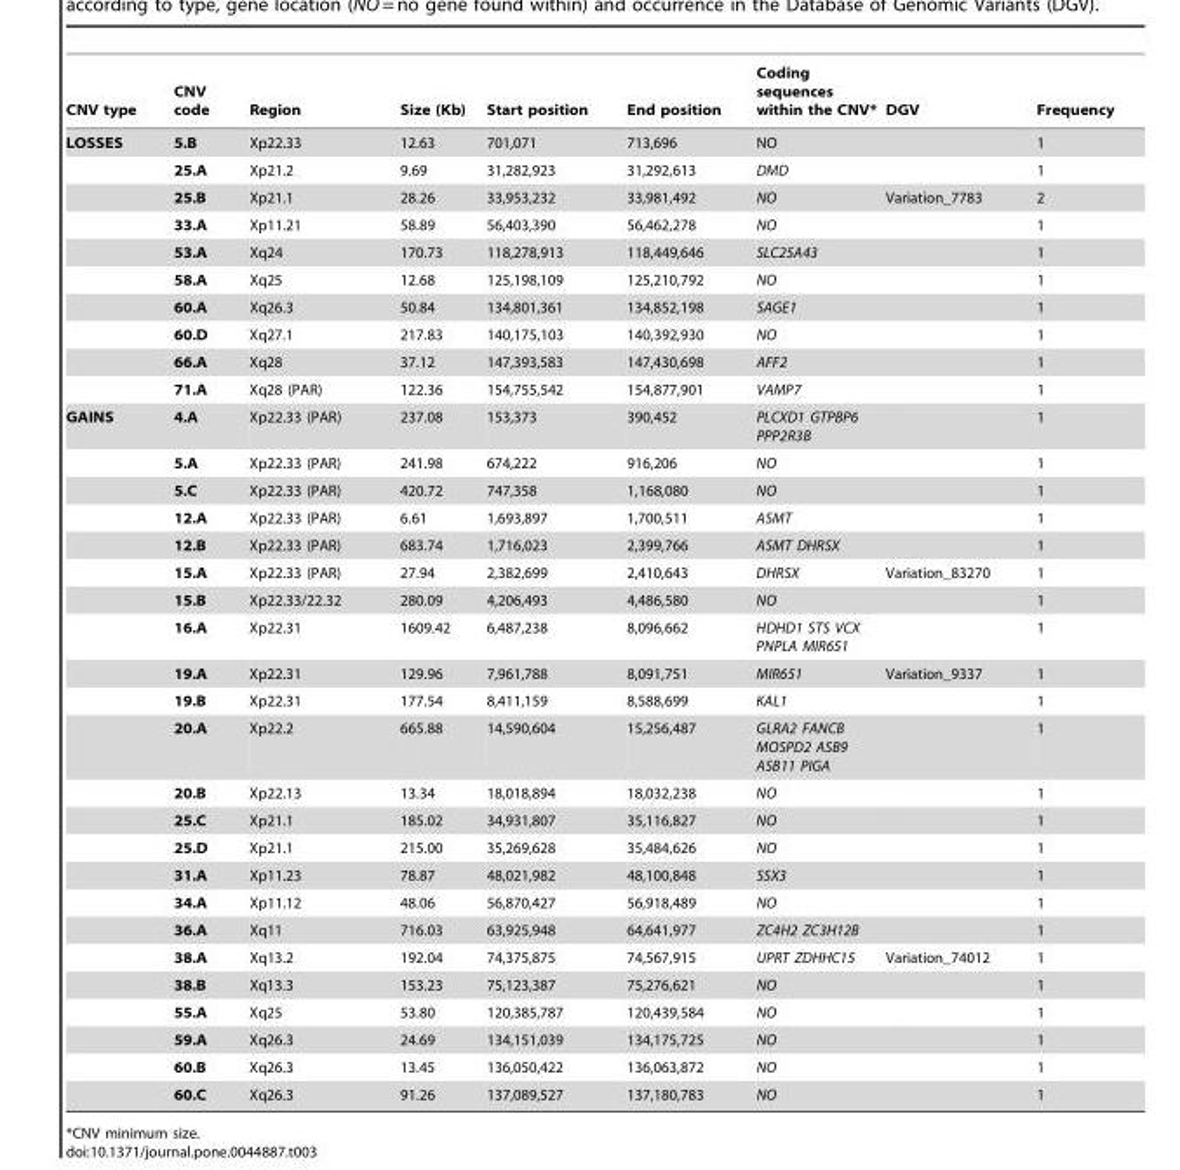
<table><thead><tr><td>CNV type</td><td>CNV code</td><td>Region</td><td>Size (Kb)</td><td>Start position</td><td>End position</td><td>Coding sequences within the CNV*</td><td>DGV</td><td>Frequency</td></tr></thead><tbody><tr><td rowspan="10">LOSSES</td><td>5.B</td><td>Xp22.33</td><td>12.63</td><td>701,071</td><td>713,696</td><td>NO</td><td></td><td>1</td></tr><tr><td>25.A</td><td>Xp21.2</td><td>9.69</td><td>31,282,923</td><td>31,292,613</td><td>DMD</td><td></td><td>1</td></tr><tr><td>25.B</td><td>Xp21.1</td><td>28.26</td><td>33,953,232</td><td>33,981,492</td><td>NO</td><td>Variation_7783</td><td>2</td></tr><tr><td>33.A</td><td>Xp11.21</td><td>58.89</td><td>56,403,390</td><td>56,462,278</td><td>NO</td><td></td><td>1</td></tr><tr><td>53.A</td><td>Xq24</td><td>170.73</td><td>118,278,913</td><td>118,449,646</td><td>SLC25A43</td><td></td><td>1</td></tr><tr><td>58.A</td><td>Xq25</td><td>12.68</td><td>125,198,109</td><td>125,210,792</td><td>NO</td><td></td><td>1</td></tr><tr><td>60.A</td><td>Xq26.3</td><td>50.84</td><td>134,801,361</td><td>134,852,198</td><td>SAGE1</td><td></td><td>1</td></tr><tr><td>60.D</td><td>Xq27.1</td><td>217.83</td><td>140,175,103</td><td>140,392,930</td><td>NO</td><td></td><td>1</td></tr><tr><td>66.A</td><td>Xq28</td><td>37.12</td><td>147,393,583</td><td>147,430,698</td><td>AFF2</td><td></td><td>1</td></tr><tr><td>71.A</td><td>Xq28 (PAR)</td><td>122.36</td><td>154,755,542</td><td>154,877,901</td><td>VAMP7</td><td></td><td>1</td></tr><tr><td rowspan="23">GAINS</td><td>4.A</td><td>Xp22.33 (PAR)</td><td>237.08</td><td>153,373</td><td>390,452</td><td>PLCXD1 GTPBP6 PPP2R3B</td><td></td><td>1</td></tr><tr><td>5.A</td><td>Xp22.33 (PAR)</td><td>241.98</td><td>674,222</td><td>916,206</td><td>NO</td><td></td><td>1</td></tr><tr><td>5.C</td><td>Xp22.33 (PAR)</td><td>420.72</td><td>747,358</td><td>1,168,080</td><td>NO</td><td></td><td>1</td></tr><tr><td>12.A</td><td>Xp22.33 (PAR)</td><td>6.61</td><td>1,693,897</td><td>1,700,511</td><td>ASMT</td><td></td><td>1</td></tr><tr><td>12.B</td><td>Xp22.33 (PAR)</td><td>683.74</td><td>1,716,023</td><td>2,399,766</td><td>ASMT DHRSX</td><td></td><td>1</td></tr><tr><td>15.A</td><td>Xp22.33 (PAR)</td><td>27.94</td><td>2,382,699</td><td>2,410,643</td><td>DHRSX</td><td>Variation_83270</td><td>1</td></tr><tr><td>15.B</td><td>Xp22.33/22.32</td><td>280.09</td><td>4,206,493</td><td>4,486,580</td><td>NO</td><td></td><td>1</td></tr><tr><td>16.A</td><td>Xp22.31</td><td>1609.42</td><td>6,487,238</td><td>8,096,662</td><td>HDHD1 STS VCX PNPLA MIR651</td><td></td><td>1</td></tr><tr><td>19.A</td><td>Xp22.31</td><td>129.96</td><td>7,961,788</td><td>8,091,751</td><td>MIR651</td><td>Variation_9337</td><td>1</td></tr><tr><td>19.B</td><td>Xp22.31</td><td>177.54</td><td>8,411,159</td><td>8,588,699</td><td>KAL1</td><td></td><td>1</td></tr><tr><td>20.A</td><td>Xp22.2</td><td>665.88</td><td>14,590,604</td><td>15,256,487</td><td>GLRA2 FANCB MOSPD2 ASB9 ASB11 PIGA</td><td></td><td>1</td></tr><tr><td>20.B</td><td>Xp22.13</td><td>13.34</td><td>18,018,894</td><td>18,032,238</td><td>NO</td><td></td><td>1</td></tr><tr><td>25.C</td><td>Xp21.1</td><td>185.02</td><td>34,931,807</td><td>35,116,827</td><td>NO</td><td></td><td>1</td></tr><tr><td>25.D</td><td>Xp21.1</td><td>215.00</td><td>35,269,628</td><td>35,484,626</td><td>NO</td><td></td><td>1</td></tr><tr><td>31.A</td><td>Xp11.23</td><td>78.87</td><td>48,021,982</td><td>48,100,848</td><td>SSX3</td><td></td><td>1</td></tr><tr><td>34.A</td><td>Xp11.12</td><td>48.06</td><td>56,870,427</td><td>56,918,489</td><td>NO</td><td></td><td>1</td></tr><tr><td>36.A</td><td>Xq11</td><td>716.03</td><td>63,925,948</td><td>64,641,977</td><td>ZC4H2 ZC3H12B</td><td></td><td>1</td></tr><tr><td>38.A</td><td>Xq13.2</td><td>192.04</td><td>74,375,875</td><td>74,567,915</td><td>UPRT ZDHHC15</td><td>Variation_74012</td><td>1</td></tr><tr><td>38.B</td><td>Xq13.3</td><td>153.23</td><td>75,123,387</td><td>75,276,621</td><td>NO</td><td></td><td>1</td></tr><tr><td>55.A</td><td>Xq25</td><td>53.80</td><td>120,385,787</td><td>120,439,584</td><td>NO</td><td></td><td>1</td></tr><tr><td>59.A</td><td>Xq26.3</td><td>24.69</td><td>134,151,039</td><td>134,175,725</td><td>NO</td><td></td><td>1</td></tr><tr><td>60.B</td><td>Xq26.3</td><td>13.45</td><td>136,050,422</td><td>136,063,872</td><td>NO</td><td></td><td>1</td></tr><tr><td>60.C</td><td>Xq26.3</td><td>91.26</td><td>137,089,527</td><td>137,180,783</td><td>NO</td><td></td><td>1</td></tr></tbody></table>